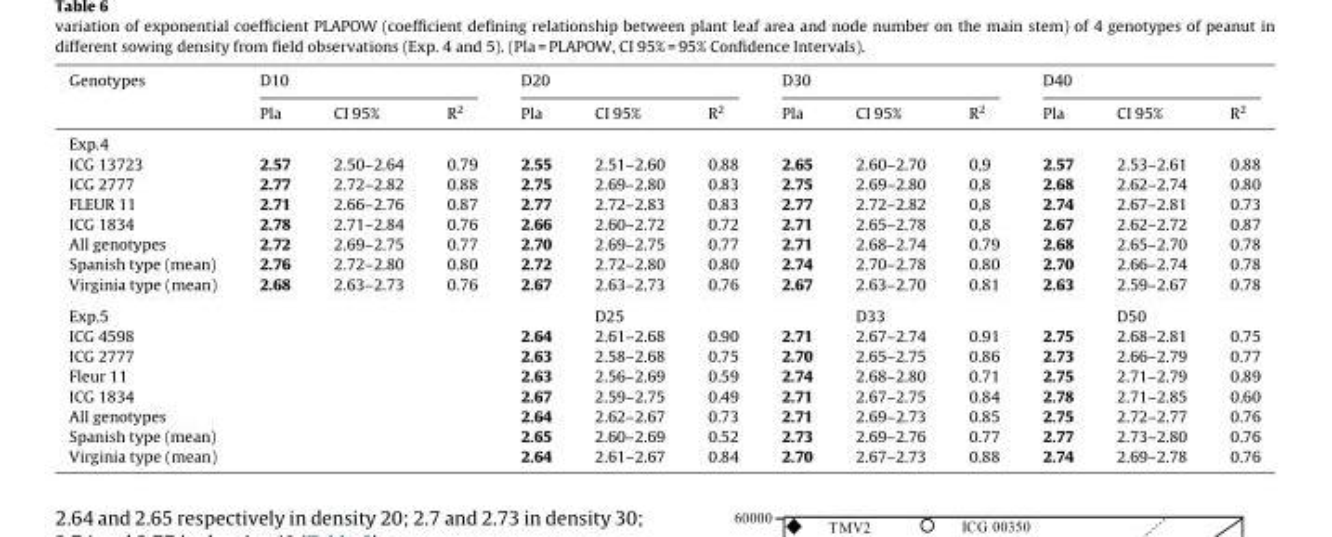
<table><thead><tr><td rowspan="2">Genotypes</td><td colspan="3">D10</td><td colspan="3">D20</td><td colspan="3">D30</td><td colspan="3">D40</td></tr><tr><td>Pla</td><td>CI 95%</td><td>R<sup>2</sup></td><td>Pla</td><td>CI 95%</td><td>R<sup>2</sup></td><td>Pla</td><td>CI 95%</td><td>R<sup>2</sup></td><td>Pla</td><td>CI 95%</td><td>R<sup>2</sup></td></tr></thead><tbody><tr><td colspan="13">Exp.4</td></tr><tr><td>ICG 13723</td><td>2.57</td><td>2.50–2.64</td><td>0.79</td><td>2.55</td><td>2.51–2.60</td><td>0.88</td><td>2.65</td><td>2.60–2.70</td><td>0,9</td><td>2.57</td><td>2.53–2.61</td><td>0.88</td></tr><tr><td>ICG 2777</td><td>2.77</td><td>2.72–2.82</td><td>0.88</td><td>2.75</td><td>2.69–2.80</td><td>0.83</td><td>2.75</td><td>2.69–2.80</td><td>0,8</td><td>2.68</td><td>2.62–2.74</td><td>0.80</td></tr><tr><td>FLEUR 11</td><td>2.71</td><td>2.66–2.76</td><td>0.87</td><td>2.77</td><td>2.72–2.83</td><td>0.83</td><td>2.77</td><td>2.72–2.82</td><td>0,8</td><td>2.74</td><td>2.67–2.81</td><td>0.73</td></tr><tr><td>ICG 1834</td><td>2.78</td><td>2.71–2.84</td><td>0.76</td><td>2.66</td><td>2.60–2.72</td><td>0.72</td><td>2.71</td><td>2.65–2.78</td><td>0,8</td><td>2.67</td><td>2.62–2.72</td><td>0.87</td></tr><tr><td>All genotypes</td><td>2.72</td><td>2.69–2.75</td><td>0.77</td><td>2.70</td><td>2.69–2.75</td><td>0.77</td><td>2.71</td><td>2.68–2.74</td><td>0.79</td><td>2.68</td><td>2.65–2.70</td><td>0.78</td></tr><tr><td>Spanish type (mean)</td><td>2.76</td><td>2.72–2.80</td><td>0.80</td><td>2.72</td><td>2.72–2.80</td><td>0.80</td><td>2.74</td><td>2.70–2.78</td><td>0.80</td><td>2.70</td><td>2.66–2.74</td><td>0.78</td></tr><tr><td>Virginia type (mean)</td><td>2.68</td><td>2.63–2.73</td><td>0.76</td><td>2.67</td><td>2.63–2.73</td><td>0.76</td><td>2.67</td><td>2.63–2.70</td><td>0.81</td><td>2.63</td><td>2.59–2.67</td><td>0.78</td></tr><tr><td>Exp.5</td><td></td><td></td><td></td><td></td><td>D25</td><td></td><td></td><td>D33</td><td></td><td></td><td>D50</td><td></td></tr><tr><td>ICG 4598</td><td></td><td></td><td></td><td>2.64</td><td>2.61–2.68</td><td>0.90</td><td>2.71</td><td>2.67–2.74</td><td>0.91</td><td>2.75</td><td>2.68–2.81</td><td>0.75</td></tr><tr><td>ICG 2777</td><td></td><td></td><td></td><td>2.63</td><td>2.58–2.68</td><td>0.75</td><td>2.70</td><td>2.65–2.75</td><td>0.86</td><td>2.73</td><td>2.66–2.79</td><td>0.77</td></tr><tr><td>Fleur 11</td><td></td><td></td><td></td><td>2.63</td><td>2.56–2.69</td><td>0.59</td><td>2.74</td><td>2.68–2.80</td><td>0.71</td><td>2.75</td><td>2.71–2.79</td><td>0.89</td></tr><tr><td>ICG 1834</td><td></td><td></td><td></td><td>2.67</td><td>2.59–2.75</td><td>0.49</td><td>2.71</td><td>2.67–2.75</td><td>0.84</td><td>2.78</td><td>2.71–2.85</td><td>0.60</td></tr><tr><td>All genotypes</td><td></td><td></td><td></td><td>2.64</td><td>2.62–2.67</td><td>0.73</td><td>2.71</td><td>2.69–2.73</td><td>0.85</td><td>2.75</td><td>2.72–2.77</td><td>0.76</td></tr><tr><td>Spanish type (mean)</td><td></td><td></td><td></td><td>2.65</td><td>2.60–2.69</td><td>0.52</td><td>2.73</td><td>2.69–2.76</td><td>0.77</td><td>2.77</td><td>2.73–2.80</td><td>0.76</td></tr><tr><td>Virginia type (mean)</td><td></td><td></td><td></td><td>2.64</td><td>2.61–2.67</td><td>0.84</td><td>2.70</td><td>2.67–2.73</td><td>0.88</td><td>2.74</td><td>2.69–2.78</td><td>0.76</td></tr></tbody></table>